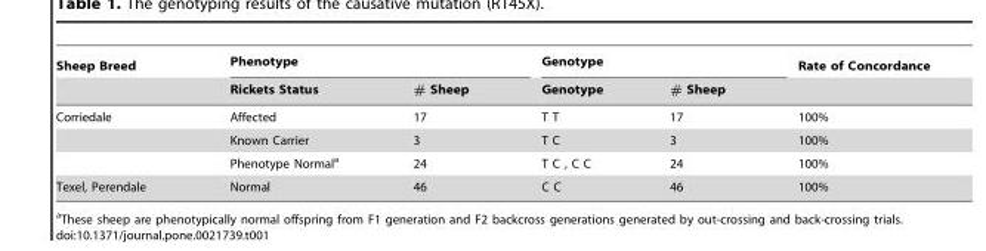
<table><thead><tr><td rowspan="2">Sheep Breed</td><td colspan="2">Phenotype</td><td colspan="2">Genotype</td><td rowspan="2">Rate of Concordance</td></tr><tr><td>Rickets Status</td><td># Sheep</td><td>Genotype</td><td># Sheep</td></tr></thead><tbody><tr><td rowspan="3">Corriedale</td><td>Affected</td><td>17</td><td>T T</td><td>17</td><td>100%</td></tr><tr><td>Known Carrier</td><td>3</td><td>T C</td><td>3</td><td>100%</td></tr><tr><td>Phenotype Normal<sup>a</sup></td><td>24</td><td>T C , C C</td><td>24</td><td>100%</td></tr><tr><td>Texel, Perendale</td><td>Normal</td><td>46</td><td>C C</td><td>46</td><td>100%</td></tr></tbody></table>